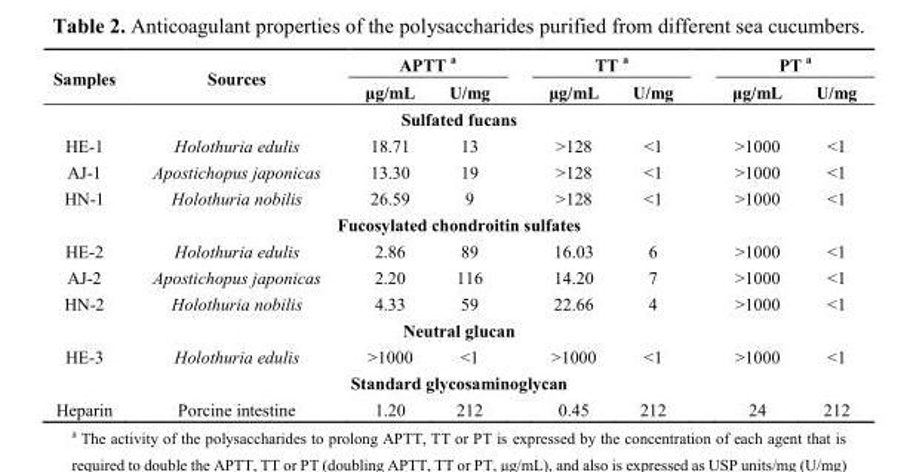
<table><thead><tr><td rowspan="2">Samples</td><td rowspan="2">Sources</td><td colspan="2">APTT <sup>a</sup></td><td colspan="2">TT <sup>a</sup></td><td colspan="2">PT <sup>a</sup></td></tr><tr><td>μg/mL</td><td>U/mg</td><td>μg/mL</td><td>U/mg</td><td>μg/mL</td><td>U/mg</td></tr></thead><tbody><tr><td colspan="8">Sulfated fucans</td></tr><tr><td>HE-1</td><td>Holothuria edulis</td><td>18.71</td><td>13</td><td>&gt;128</td><td>&lt;1</td><td>&gt;1000</td><td>&lt;1</td></tr><tr><td>AJ-1</td><td>Apostichopus japonicas</td><td>13.30</td><td>19</td><td>&gt;128</td><td>&lt;1</td><td>&gt;1000</td><td>&lt;1</td></tr><tr><td>HN-1</td><td>Holothuria nobilis</td><td>26.59</td><td>9</td><td>&gt;128</td><td>&lt;1</td><td>&gt;1000</td><td>&lt;1</td></tr><tr><td colspan="8">Fucosylated chondroitin sulfates</td></tr><tr><td>HE-2</td><td>Holothuria edulis</td><td>2.86</td><td>89</td><td>16.03</td><td>6</td><td>&gt;1000</td><td>&lt;1</td></tr><tr><td>AJ-2</td><td>Apostichopus japonicas</td><td>2.20</td><td>116</td><td>14.20</td><td>7</td><td>&gt;1000</td><td>&lt;1</td></tr><tr><td>HN-2</td><td>Holothuria nobilis</td><td>4.33</td><td>59</td><td>22.66</td><td>4</td><td>&gt;1000</td><td>&lt;1</td></tr><tr><td colspan="8">Neutral glucan</td></tr><tr><td>HE-3</td><td>Holothuria edulis</td><td>&gt;1000</td><td>&lt;1</td><td>&gt;1000</td><td>&lt;1</td><td>&gt;1000</td><td>&lt;1</td></tr><tr><td colspan="8">Standard glycosaminoglycan</td></tr><tr><td>Heparin</td><td>Porcine intestine</td><td>1.20</td><td>212</td><td>0.45</td><td>212</td><td>24</td><td>212</td></tr></tbody></table>